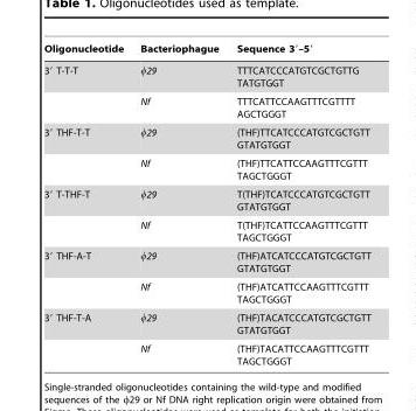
<table><thead><tr><td>Oligonucleotide</td><td>Bacteriophague</td><td>Sequence 3′–5′</td></tr></thead><tbody><tr><td rowspan="2">3′ T-T-T</td><td>φ29</td><td>TTTCATCCCATGTCGCTGTTG TATGTGGT</td></tr><tr><td>Nf</td><td>TTTCATTCCAAGTTTCGTTTT AGCTGGGT</td></tr><tr><td rowspan="2">3′ THF-T-T</td><td>φ29</td><td>(THF)TTCATCCCATGTCGCTGTT GTATGTGGT</td></tr><tr><td>Nf</td><td>(THF)TTCATTCCAAGTTTCGTTT TAGCTGGGT</td></tr><tr><td rowspan="2">3′ T-THF-T</td><td>φ29</td><td>T(THF)TCATCCCATGTCGCTGTT GTATGTGGT</td></tr><tr><td>Nf</td><td>T(THF)TCATTCCAAGTTTCGTTT TAGCTGGGT</td></tr><tr><td rowspan="2">3′ THF-A-T</td><td>φ29</td><td>(THF)ATCATCCCATGTCGCTGTT GTATGTGGT</td></tr><tr><td>Nf</td><td>(THF)ATCATTCCAAGTTTCGTTT TAGCTGGGT</td></tr><tr><td rowspan="2">3′ THF-T-A</td><td>φ29</td><td>(THF)TACATCCCATGTCGCTGTT GTATGTGGT</td></tr><tr><td>Nf</td><td>(THF)TACATTCCAAGTTTCGTTT TAGCTGGGT</td></tr></tbody></table>